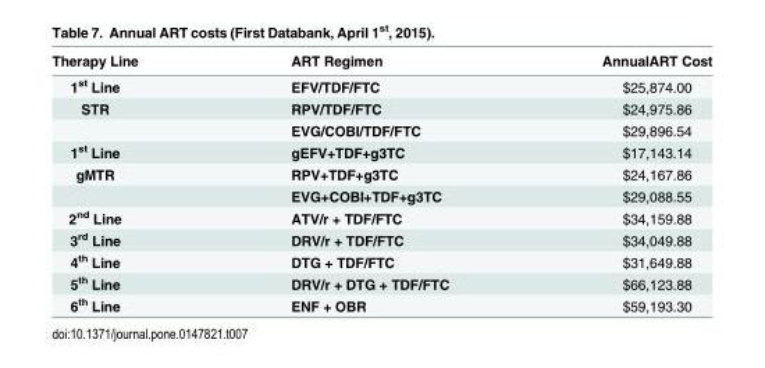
<table><thead><tr><td>Therapy Line</td><td>ART Regimen</td><td>AnnualART Cost</td></tr></thead><tbody><tr><td>1<sup>st</sup> Line</td><td>EFV/TDF/FTC</td><td>$25,874.00</td></tr><tr><td rowspan="2">STR</td><td>RPV/TDF/FTC</td><td>$24,975.86</td></tr><tr><td>EVG/COBI/TDF/FTC</td><td>$29,896.54</td></tr><tr><td>1<sup>st</sup> Line</td><td>gEFV+TDF+g3TC</td><td>$17,143.14</td></tr><tr><td rowspan="2">gMTR</td><td>RPV+TDF+g3TC</td><td>$24,167.86</td></tr><tr><td>EVG+COBI+TDF+g3TC</td><td>$29,088.55</td></tr><tr><td>2<sup>nd</sup> Line</td><td>ATV/r + TDF/FTC</td><td>$34,159.88</td></tr><tr><td>3<sup>rd</sup> Line</td><td>DRV/r + TDF/FTC</td><td>$34,049.88</td></tr><tr><td>4<sup>th</sup> Line</td><td>DTG + TDF/FTC</td><td>$31,649.88</td></tr><tr><td>5<sup>th</sup> Line</td><td>DRV/r + DTG + TDF/FTC</td><td>$66,123.88</td></tr><tr><td>6<sup>th</sup> Line</td><td>ENF + OBR</td><td>$59,193.30</td></tr></tbody></table>